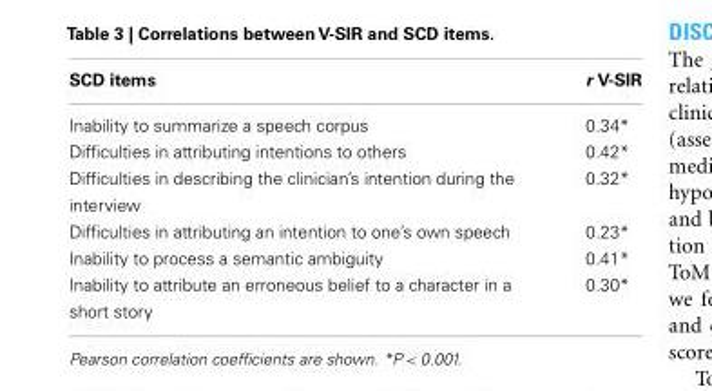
<table><thead><tr><td>SCD items</td><td>r V-SIR</td></tr></thead><tbody><tr><td>Inability to summarize a speech corpus</td><td>0.34*</td></tr><tr><td>Difficulties in attributing intentions to others</td><td>0.42*</td></tr><tr><td>Difficulties in describing the clinician’s intention during the interview</td><td>0.32*</td></tr><tr><td>Difficulties in attributing an intention to one’s own speech</td><td>0.23*</td></tr><tr><td>Inability to process a semantic ambiguity</td><td>0.41*</td></tr><tr><td>Inability to attribute an erroneous belief to a character in a short story</td><td>0.30*</td></tr></tbody></table>